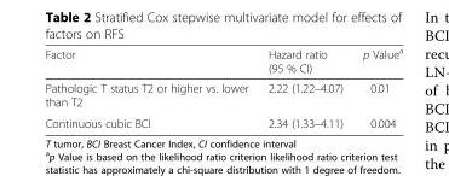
<table><thead><tr><td>Factor</td><td>Hazard ratio (95 % CI)</td><td>p Value<sup>a</sup></td></tr></thead><tbody><tr><td>Pathologic T status T2 or higher vs. lower than T2</td><td>2.22 (1.22–4.07)</td><td>0.01</td></tr><tr><td>Continuous cubic BCI</td><td>2.34 (1.33–4.11)</td><td>0.004</td></tr></tbody></table>